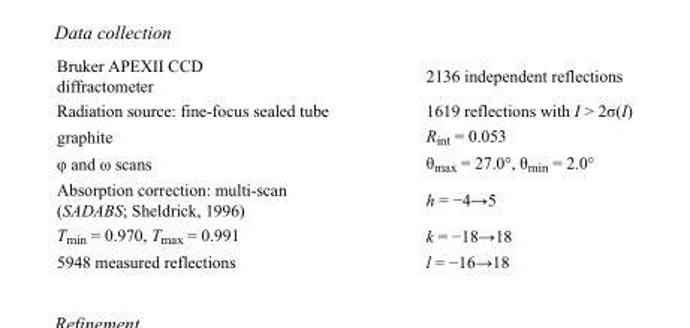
<table><tbody><tr><td>Bruker APEXII CCD diffractometer</td><td>2136 independent reflections</td></tr><tr><td>Radiation source: fine-focus sealed tube</td><td>1619 reflections with I &gt; 2σ(I)</td></tr><tr><td>graphite</td><td>R<sub>int</sub> = 0.053</td></tr><tr><td>φ and ω scans</td><td>θ<sub>max</sub> = 27.0°, θ<sub>min</sub> = 2.0°</td></tr><tr><td>Absorption correction: multi-scan (SADABS; Sheldrick, 1996)</td><td>h = −4→5</td></tr><tr><td>T<sub>min</sub> = 0.970, T<sub>max</sub> = 0.991</td><td>k = −18→18</td></tr><tr><td>5948 measured reflections</td><td>l = −16→18</td></tr></tbody></table>